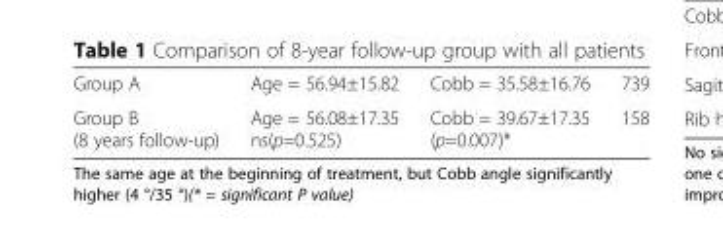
<table><tbody><tr><td>Group A</td><td>Age = 56.94±15.82</td><td>Cobb = 35.58±16.76</td><td>739</td></tr><tr><td>Group B (8 years follow-up)</td><td>Age = 56.08±17.35 ns(p=0.525)</td><td>Cobb = 39.67±17.35 (p=0.007)*</td><td>158</td></tr></tbody></table>